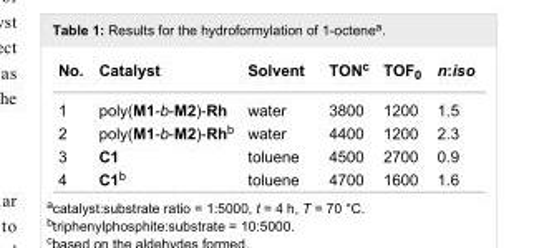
<table><tbody><tr><td>No.</td><td>Catalyst</td><td>Solvent</td><td>TON<sup>c</sup></td><td>TOF<sub>0</sub></td><td>n:iso</td></tr><tr><td>1</td><td>poly(M1-b-M2)-Rh</td><td>water</td><td>3800</td><td>1200</td><td>1.5</td></tr><tr><td>2</td><td>poly(M1-b-M2)-Rh<sup>b</sup></td><td>water</td><td>4400</td><td>1200</td><td>2.3</td></tr><tr><td>3</td><td>C1</td><td>toluene</td><td>4500</td><td>2700</td><td>0.9</td></tr><tr><td>4</td><td>C1<sup>b</sup></td><td>toluene</td><td>4700</td><td>1600</td><td>1.6</td></tr></tbody></table>